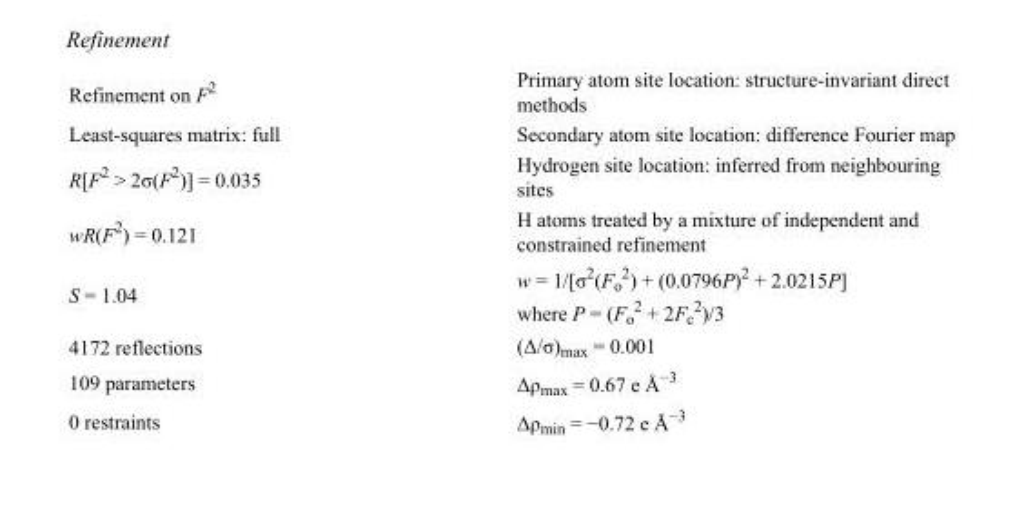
<table><tbody><tr><td>Refinement on F<sup>2</sup></td><td>Primary atom site location: structure-invariant direct methods</td></tr><tr><td>Least-squares matrix: full</td><td>Secondary atom site location: difference Fourier map</td></tr><tr><td>R[F<sup>2</sup> &gt; 2σ(F<sup>2</sup>)] = 0.035</td><td>Hydrogen site location: inferred from neighbouring sites</td></tr><tr><td>wR(F<sup>2</sup>) = 0.121</td><td>H atoms treated by a mixture of independent and constrained refinement</td></tr><tr><td>S = 1.04</td><td>w = 1/[σ<sup>2</sup>(F<sub>o</sub> <sup>2</sup>) + (0.0796P)<sup>2</sup> + 2.0215P] where P = (F<sub>o</sub> <sup>2</sup> + 2F<sub>c</sub> <sup>2</sup>)/3</td></tr><tr><td>4172 reflections</td><td>(Δ/σ)<sub>max</sub> = 0.001</td></tr><tr><td>109 parameters</td><td>Δρ<sub>max</sub> = 0.67 e Å<sup>−3</sup></td></tr><tr><td>0 restraints</td><td>Δρ<sub>min</sub> = −0.72 e Å<sup>−3</sup></td></tr></tbody></table>